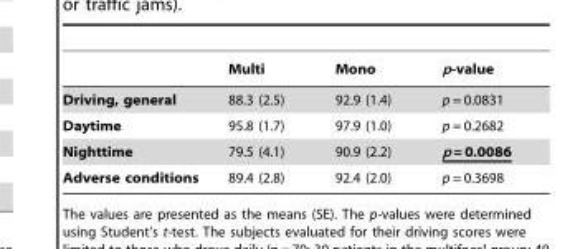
<table><thead><tr><td></td><td>Multi</td><td>Mono</td><td>p-value</td></tr></thead><tbody><tr><td>Driving, general</td><td>88.3 (2.5)</td><td>92.9 (1.4)</td><td>p = 0.0831</td></tr><tr><td>Daytime</td><td>95.8 (1.7)</td><td>97.9 (1.0)</td><td>p = 0.2682</td></tr><tr><td>Nighttime</td><td>79.5 (4.1)</td><td>90.9 (2.2)</td><td>p = 0.0086</td></tr><tr><td>Adverse conditions</td><td>89.4 (2.8)</td><td>92.4 (2.0)</td><td>p = 0.3698</td></tr></tbody></table>